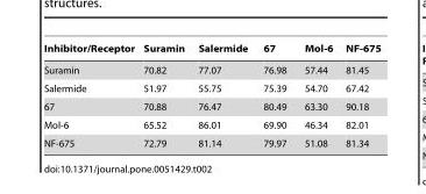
<table><thead><tr><td>Inhibitor/Receptor</td><td>Suramin</td><td>Salermide</td><td>67</td><td>Mol-6</td><td>NF-675</td></tr></thead><tbody><tr><td>Suramin</td><td>70.82</td><td>77.07</td><td>76.98</td><td>57.44</td><td>81.45</td></tr><tr><td>Salermide</td><td>51.97</td><td>55.75</td><td>75.39</td><td>54.70</td><td>67.42</td></tr><tr><td>67</td><td>70.88</td><td>76.47</td><td>80.49</td><td>63.30</td><td>90.18</td></tr><tr><td>Mol-6</td><td>65.52</td><td>86.01</td><td>69.90</td><td>46.34</td><td>82.01</td></tr><tr><td>NF-675</td><td>72.79</td><td>81.14</td><td>79.97</td><td>51.08</td><td>81.34</td></tr></tbody></table>